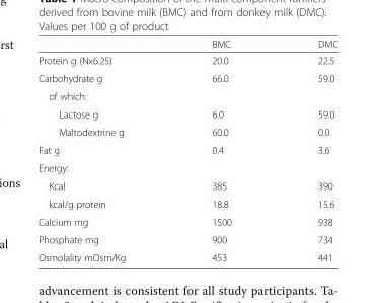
<table><thead><tr><td></td><td>BMC</td><td>DMC</td></tr></thead><tbody><tr><td>Protein g (Nx6.25)</td><td>20.0</td><td>22.5</td></tr><tr><td>Carbohydrate g</td><td>66.0</td><td>59.0</td></tr><tr><td colspan="3">of which:</td></tr><tr><td>Lactose g</td><td>6.0</td><td>59.0</td></tr><tr><td>Maltodextrine g</td><td>60.0</td><td>0.0</td></tr><tr><td>Fat g</td><td>0.4</td><td>3.6</td></tr><tr><td colspan="3">Energy:</td></tr><tr><td>Kcal</td><td>385</td><td>390</td></tr><tr><td>kcal/g protein</td><td>18.8</td><td>15.6</td></tr><tr><td>Calcium mg</td><td>1500</td><td>938</td></tr><tr><td>Phosphate mg</td><td>900</td><td>734</td></tr><tr><td>Osmolality mOsm/Kg</td><td>453</td><td>441</td></tr></tbody></table>